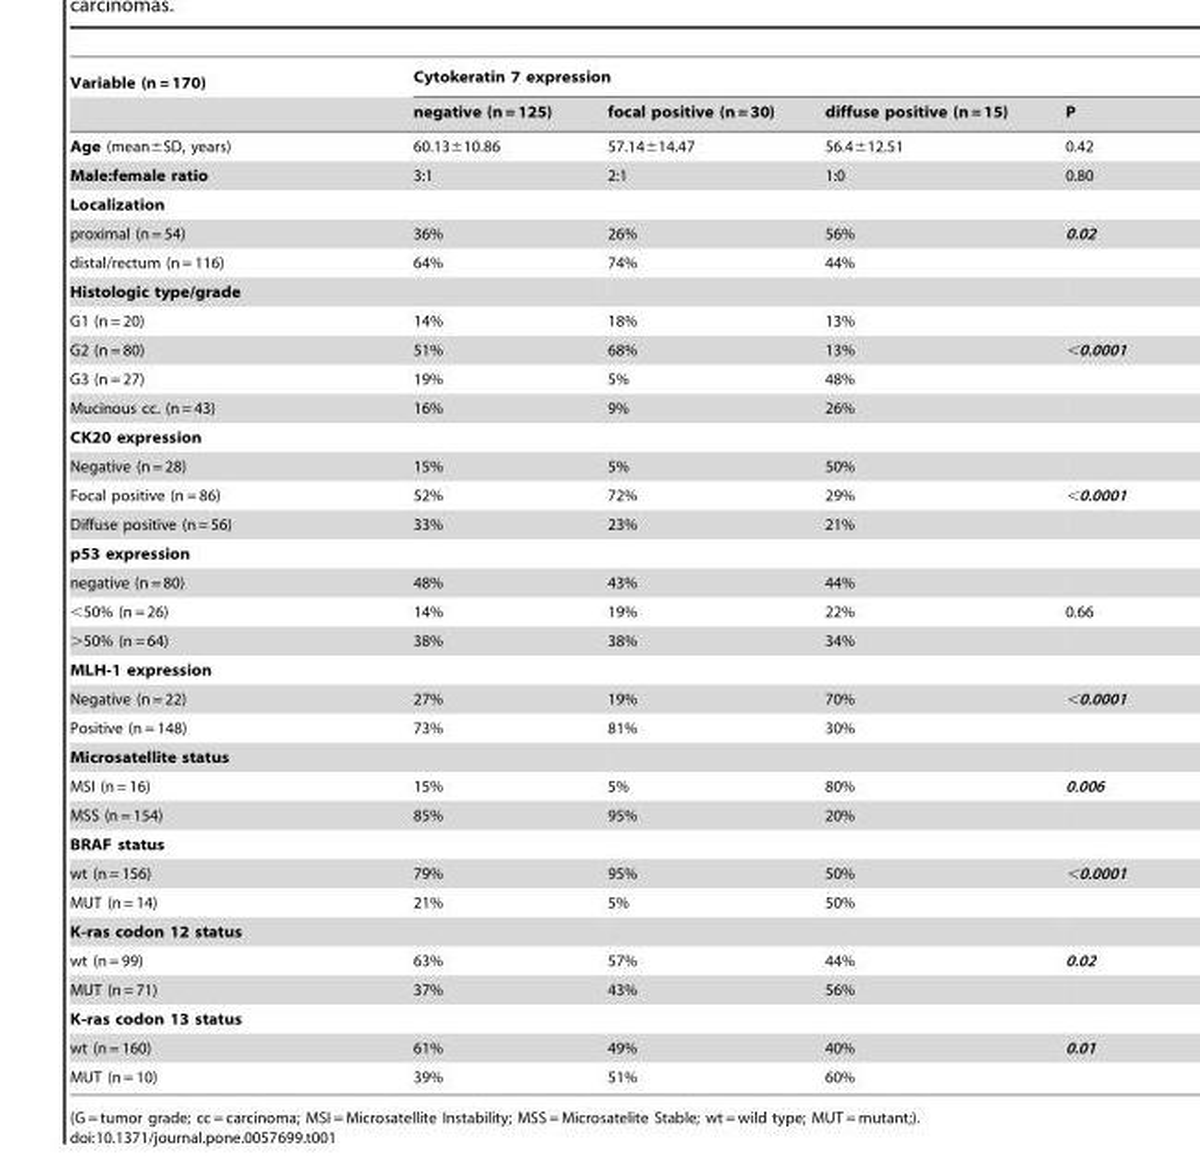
<table><thead><tr><td rowspan="2">Variable (n = 170)</td><td colspan="4">Cytokeratin 7 expression</td></tr><tr><td>negative (n = 125)</td><td>focal positive (n = 30)</td><td>diffuse positive (n = 15)</td><td>P</td></tr></thead><tbody><tr><td>Age (mean±SD, years)</td><td>60.13±10.86</td><td>57.14±14.47</td><td>56.4±12.51</td><td>0.42</td></tr><tr><td>Male:female ratio</td><td>3:1</td><td>2:1</td><td>1:0</td><td>0.80</td></tr><tr><td colspan="5">Localization</td></tr><tr><td>proximal (n = 54)</td><td>36%</td><td>26%</td><td>56%</td><td>0.02</td></tr><tr><td>distal/rectum (n = 116)</td><td>64%</td><td>74%</td><td>44%</td><td></td></tr><tr><td colspan="5">Histologic type/grade</td></tr><tr><td>G1 (n = 20)</td><td>14%</td><td>18%</td><td>13%</td><td></td></tr><tr><td>G2 (n = 80)</td><td>51%</td><td>68%</td><td>13%</td><td>&lt;0.0001</td></tr><tr><td>G3 (n = 27)</td><td>19%</td><td>5%</td><td>48%</td><td></td></tr><tr><td>Mucinous cc. (n = 43)</td><td>16%</td><td>9%</td><td>26%</td><td></td></tr><tr><td colspan="5">CK20 expression</td></tr><tr><td>Negative (n = 28)</td><td>15%</td><td>5%</td><td>50%</td><td></td></tr><tr><td>Focal positive (n = 86)</td><td>52%</td><td>72%</td><td>29%</td><td>&lt;0.0001</td></tr><tr><td>Diffuse positive (n = 56)</td><td>33%</td><td>23%</td><td>21%</td><td></td></tr><tr><td colspan="5">p53 expression</td></tr><tr><td>negative (n = 80)</td><td>48%</td><td>43%</td><td>44%</td><td></td></tr><tr><td>&lt;50% (n = 26)</td><td>14%</td><td>19%</td><td>22%</td><td>0.66</td></tr><tr><td>&gt;50% (n = 64)</td><td>38%</td><td>38%</td><td>34%</td><td></td></tr><tr><td colspan="5">MLH-1 expression</td></tr><tr><td>Negative (n = 22)</td><td>27%</td><td>19%</td><td>70%</td><td>&lt;0.0001</td></tr><tr><td>Positive (n = 148)</td><td>73%</td><td>81%</td><td>30%</td><td></td></tr><tr><td colspan="5">Microsatellite status</td></tr><tr><td>MSI (n = 16)</td><td>15%</td><td>5%</td><td>80%</td><td>0.006</td></tr><tr><td>MSS (n = 154)</td><td>85%</td><td>95%</td><td>20%</td><td></td></tr><tr><td colspan="5">BRAF status</td></tr><tr><td>wt (n = 156)</td><td>79%</td><td>95%</td><td>50%</td><td>&lt;0.0001</td></tr><tr><td>MUT (n = 14)</td><td>21%</td><td>5%</td><td>50%</td><td></td></tr><tr><td colspan="5">K-ras codon 12 status</td></tr><tr><td>wt (n = 99)</td><td>63%</td><td>57%</td><td>44%</td><td>0.02</td></tr><tr><td>MUT (n = 71)</td><td>37%</td><td>43%</td><td>56%</td><td></td></tr><tr><td colspan="5">K-ras codon 13 status</td></tr><tr><td>wt (n = 160)</td><td>61%</td><td>49%</td><td>40%</td><td>0.01</td></tr><tr><td>MUT (n = 10)</td><td>39%</td><td>51%</td><td>60%</td><td></td></tr></tbody></table>